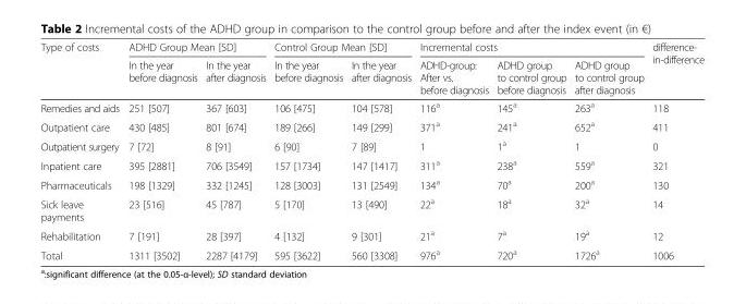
<table><thead><tr><td rowspan="2">Type of costs</td><td colspan="2">ADHD Group Mean [SD]</td><td colspan="2">Control Group Mean [SD]</td><td colspan="3">Incremental costs</td><td rowspan="2">difference- in-difference</td></tr><tr><td>In the year before diagnosis</td><td>In the year after diagnosis</td><td>In the year before diagnosis</td><td>In the year after diagnosis</td><td>ADHD-group: After vs. before diagnosis</td><td>ADHD group to control group before diagnosis</td><td>ADHD group to control group after diagnosis</td></tr></thead><tbody><tr><td>Remedies and aids</td><td>251 [507]</td><td>367 [603]</td><td>106 [475]</td><td>104 [578]</td><td>116<sup>a</sup></td><td>145<sup>a</sup></td><td>263<sup>a</sup></td><td>118</td></tr><tr><td>Outpatient care</td><td>430 [485]</td><td>801 [674]</td><td>189 [266]</td><td>149 [299]</td><td>371<sup>a</sup></td><td>241<sup>a</sup></td><td>652<sup>a</sup></td><td>411</td></tr><tr><td>Outpatient surgery</td><td>7 [72]</td><td>8 [91]</td><td>6 [90]</td><td>7 [89]</td><td>1</td><td>1<sup>a</sup></td><td>1</td><td>0</td></tr><tr><td>Inpatient care</td><td>395 [2881]</td><td>706 [3549]</td><td>157 [1734]</td><td>147 [1417]</td><td>311<sup>a</sup></td><td>238<sup>a</sup></td><td>559<sup>a</sup></td><td>321</td></tr><tr><td>Pharmaceuticals</td><td>198 [1329]</td><td>332 [1245]</td><td>128 [3003]</td><td>131 [2549]</td><td>134<sup>a</sup></td><td>70<sup>a</sup></td><td>200<sup>a</sup></td><td>130</td></tr><tr><td>Sick leave payments</td><td>23 [516]</td><td>45 [787]</td><td>5 [170]</td><td>13 [490]</td><td>22<sup>a</sup></td><td>18<sup>a</sup></td><td>32<sup>a</sup></td><td>14</td></tr><tr><td>Rehabilitation</td><td>7 [191]</td><td>28 [397]</td><td>4 [132]</td><td>9 [301]</td><td>21<sup>a</sup></td><td>7<sup>a</sup></td><td>19<sup>a</sup></td><td>12</td></tr><tr><td>Total</td><td>1311 [3502]</td><td>2287 [4179]</td><td>595 [3622]</td><td>560 [3308]</td><td>976<sup>a</sup></td><td>720<sup>a</sup></td><td>1726<sup>a</sup></td><td>1006</td></tr></tbody></table>